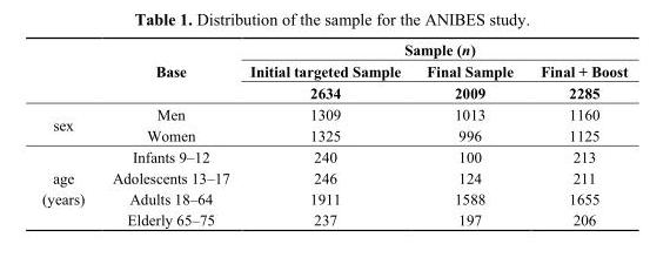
<table><thead><tr><td rowspan="3"></td><td rowspan="3">Base</td><td colspan="3">Sample (n)</td></tr><tr><td rowspan="2">Initial targeted Sample 2634</td><td rowspan="2">Final Sample 2009</td><td rowspan="2">Final + Boost 2285</td></tr><tr></tr></thead><tbody><tr><td rowspan="2">sex</td><td>Men</td><td>1309</td><td>1013</td><td>1160</td></tr><tr><td>Women</td><td>1325</td><td>996</td><td>1125</td></tr><tr><td rowspan="4">age (years)</td><td>Infants 9–12</td><td>240</td><td>100</td><td>213</td></tr><tr><td>Adolescents 13–17</td><td>246</td><td>124</td><td>211</td></tr><tr><td>Adults 18–64</td><td>1911</td><td>1588</td><td>1655</td></tr><tr><td>Elderly 65–75</td><td>237</td><td>197</td><td>206</td></tr></tbody></table>